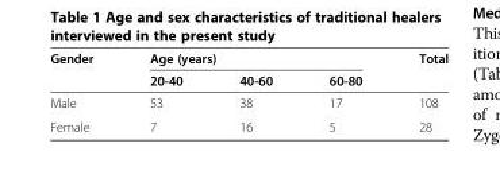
<table><thead><tr><td rowspan="2">Gender</td><td colspan="3">Age (years)</td><td rowspan="2">Total</td></tr><tr><td>20-40</td><td>40-60</td><td>60-80</td></tr></thead><tbody><tr><td>Male</td><td>53</td><td>38</td><td>17</td><td>108</td></tr><tr><td>Female</td><td>7</td><td>16</td><td>5</td><td>28</td></tr></tbody></table>